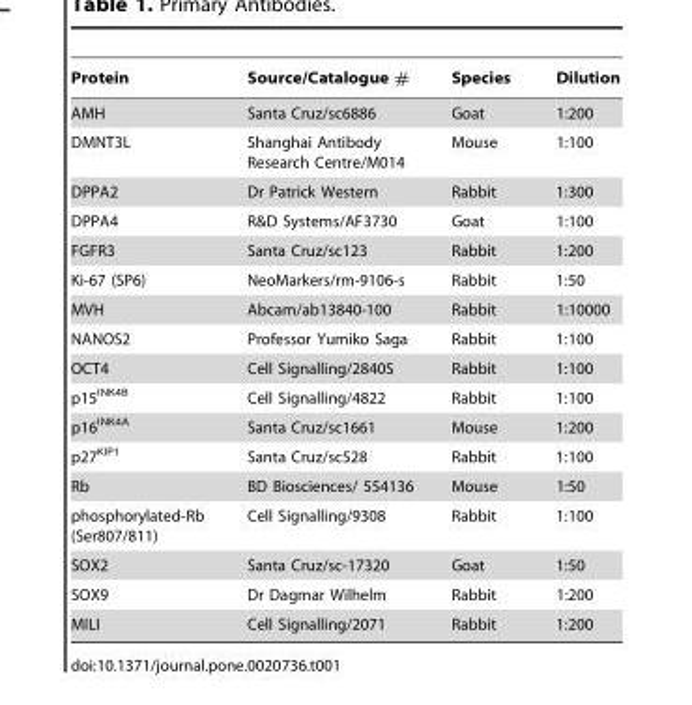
<table><thead><tr><td>Protein</td><td>Source/Catalogue #</td><td>Species</td><td>Dilution</td></tr></thead><tbody><tr><td>AMH</td><td>Santa Cruz/sc6886</td><td>Goat</td><td>1:200</td></tr><tr><td>DMNT3L</td><td>Shanghai Antibody Research Centre/M014</td><td>Mouse</td><td>1:100</td></tr><tr><td>DPPA2</td><td>Dr Patrick Western</td><td>Rabbit</td><td>1:300</td></tr><tr><td>DPPA4</td><td>R&amp;D Systems/AF3730</td><td>Goat</td><td>1:100</td></tr><tr><td>FGFR3</td><td>Santa Cruz/sc123</td><td>Rabbit</td><td>1:200</td></tr><tr><td>Ki-67 (SP6)</td><td>NeoMarkers/rm-9106-s</td><td>Rabbit</td><td>1:50</td></tr><tr><td>MVH</td><td>Abcam/ab13840-100</td><td>Rabbit</td><td>1:10000</td></tr><tr><td>NANOS2</td><td>Professor Yumiko Saga</td><td>Rabbit</td><td>1:100</td></tr><tr><td>OCT4</td><td>Cell Signalling/2840S</td><td>Rabbit</td><td>1:100</td></tr><tr><td>p15<sup>INK4B</sup></td><td>Cell Signalling/4822</td><td>Rabbit</td><td>1:100</td></tr><tr><td>p16<sup>INK4A</sup></td><td>Santa Cruz/sc1661</td><td>Mouse</td><td>1:200</td></tr><tr><td>p27<sup>KIP1</sup></td><td>Santa Cruz/sc528</td><td>Rabbit</td><td>1:100</td></tr><tr><td>Rb</td><td>BD Biosciences/ 554136</td><td>Mouse</td><td>1:50</td></tr><tr><td>phosphorylated-Rb (Ser807/811)</td><td>Cell Signalling/9308</td><td>Rabbit</td><td>1:100</td></tr><tr><td>SOX2</td><td>Santa Cruz/sc-17320</td><td>Goat</td><td>1:50</td></tr><tr><td>SOX9</td><td>Dr Dagmar Wilhelm</td><td>Rabbit</td><td>1:200</td></tr><tr><td>MILI</td><td>Cell Signalling/2071</td><td>Rabbit</td><td>1:200</td></tr></tbody></table>